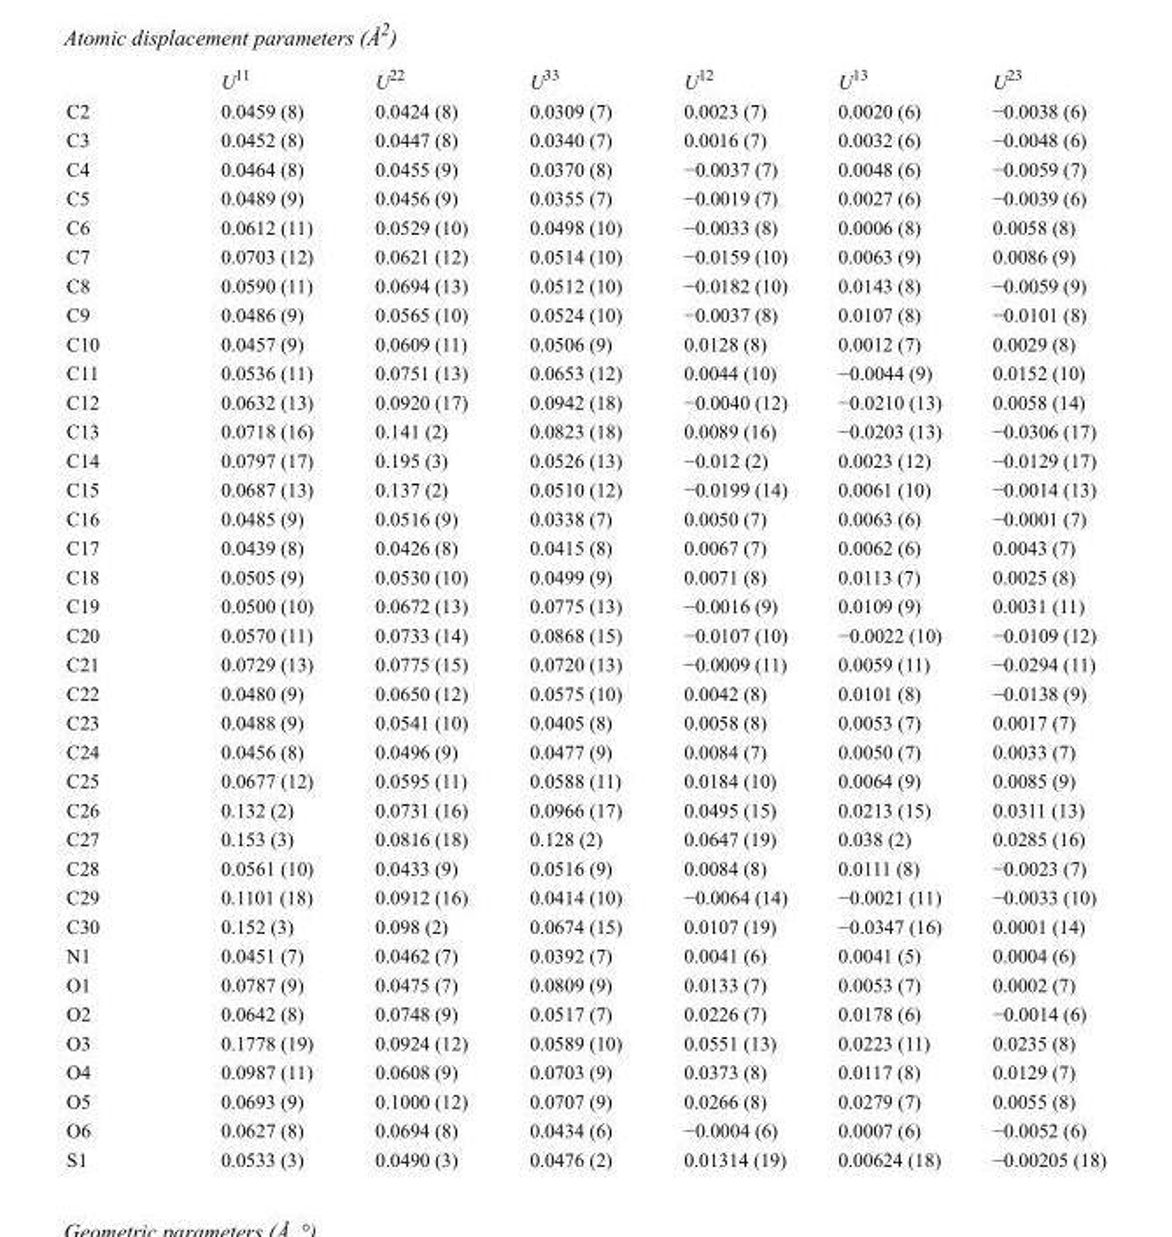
<table><thead><tr><td></td><td>U<sup>11</sup></td><td>U<sup>22</sup></td><td>U<sup>33</sup></td><td>U<sup>12</sup></td><td>U<sup>13</sup></td><td>U<sup>23</sup></td></tr></thead><tbody><tr><td>C2</td><td>0.0459 (8)</td><td>0.0424 (8)</td><td>0.0309 (7)</td><td>0.0023 (7)</td><td>0.0020 (6)</td><td>−0.0038 (6)</td></tr><tr><td>C3</td><td>0.0452 (8)</td><td>0.0447 (8)</td><td>0.0340 (7)</td><td>0.0016 (7)</td><td>0.0032 (6)</td><td>−0.0048 (6)</td></tr><tr><td>C4</td><td>0.0464 (8)</td><td>0.0455 (9)</td><td>0.0370 (8)</td><td>−0.0037 (7)</td><td>0.0048 (6)</td><td>−0.0059 (7)</td></tr><tr><td>C5</td><td>0.0489 (9)</td><td>0.0456 (9)</td><td>0.0355 (7)</td><td>−0.0019 (7)</td><td>0.0027 (6)</td><td>−0.0039 (6)</td></tr><tr><td>C6</td><td>0.0612 (11)</td><td>0.0529 (10)</td><td>0.0498 (10)</td><td>−0.0033 (8)</td><td>0.0006 (8)</td><td>0.0058 (8)</td></tr><tr><td>C7</td><td>0.0703 (12)</td><td>0.0621 (12)</td><td>0.0514 (10)</td><td>−0.0159 (10)</td><td>0.0063 (9)</td><td>0.0086 (9)</td></tr><tr><td>C8</td><td>0.0590 (11)</td><td>0.0694 (13)</td><td>0.0512 (10)</td><td>−0.0182 (10)</td><td>0.0143 (8)</td><td>−0.0059 (9)</td></tr><tr><td>C9</td><td>0.0486 (9)</td><td>0.0565 (10)</td><td>0.0524 (10)</td><td>−0.0037 (8)</td><td>0.0107 (8)</td><td>−0.0101 (8)</td></tr><tr><td>C10</td><td>0.0457 (9)</td><td>0.0609 (11)</td><td>0.0506 (9)</td><td>0.0128 (8)</td><td>0.0012 (7)</td><td>0.0029 (8)</td></tr><tr><td>C11</td><td>0.0536 (11)</td><td>0.0751 (13)</td><td>0.0653 (12)</td><td>0.0044 (10)</td><td>−0.0044 (9)</td><td>0.0152 (10)</td></tr><tr><td>C12</td><td>0.0632 (13)</td><td>0.0920 (17)</td><td>0.0942 (18)</td><td>−0.0040 (12)</td><td>−0.0210 (13)</td><td>0.0058 (14)</td></tr><tr><td>C13</td><td>0.0718 (16)</td><td>0.141 (2)</td><td>0.0823 (18)</td><td>0.0089 (16)</td><td>−0.0203 (13)</td><td>−0.0306 (17)</td></tr><tr><td>C14</td><td>0.0797 (17)</td><td>0.195 (3)</td><td>0.0526 (13)</td><td>−0.012 (2)</td><td>0.0023 (12)</td><td>−0.0129 (17)</td></tr><tr><td>C15</td><td>0.0687 (13)</td><td>0.137 (2)</td><td>0.0510 (12)</td><td>−0.0199 (14)</td><td>0.0061 (10)</td><td>−0.0014 (13)</td></tr><tr><td>C16</td><td>0.0485 (9)</td><td>0.0516 (9)</td><td>0.0338 (7)</td><td>0.0050 (7)</td><td>0.0063 (6)</td><td>−0.0001 (7)</td></tr><tr><td>C17</td><td>0.0439 (8)</td><td>0.0426 (8)</td><td>0.0415 (8)</td><td>0.0067 (7)</td><td>0.0062 (6)</td><td>0.0043 (7)</td></tr><tr><td>C18</td><td>0.0505 (9)</td><td>0.0530 (10)</td><td>0.0499 (9)</td><td>0.0071 (8)</td><td>0.0113 (7)</td><td>0.0025 (8)</td></tr><tr><td>C19</td><td>0.0500 (10)</td><td>0.0672 (13)</td><td>0.0775 (13)</td><td>−0.0016 (9)</td><td>0.0109 (9)</td><td>0.0031 (11)</td></tr><tr><td>C20</td><td>0.0570 (11)</td><td>0.0733 (14)</td><td>0.0868 (15)</td><td>−0.0107 (10)</td><td>−0.0022 (10)</td><td>−0.0109 (12)</td></tr><tr><td>C21</td><td>0.0729 (13)</td><td>0.0775 (15)</td><td>0.0720 (13)</td><td>−0.0009 (11)</td><td>0.0059 (11)</td><td>−0.0294 (11)</td></tr><tr><td>C22</td><td>0.0480 (9)</td><td>0.0650 (12)</td><td>0.0575 (10)</td><td>0.0042 (8)</td><td>0.0101 (8)</td><td>−0.0138 (9)</td></tr><tr><td>C23</td><td>0.0488 (9)</td><td>0.0541 (10)</td><td>0.0405 (8)</td><td>0.0058 (8)</td><td>0.0053 (7)</td><td>0.0017 (7)</td></tr><tr><td>C24</td><td>0.0456 (8)</td><td>0.0496 (9)</td><td>0.0477 (9)</td><td>0.0084 (7)</td><td>0.0050 (7)</td><td>0.0033 (7)</td></tr><tr><td>C25</td><td>0.0677 (12)</td><td>0.0595 (11)</td><td>0.0588 (11)</td><td>0.0184 (10)</td><td>0.0064 (9)</td><td>0.0085 (9)</td></tr><tr><td>C26</td><td>0.132 (2)</td><td>0.0731 (16)</td><td>0.0966 (17)</td><td>0.0495 (15)</td><td>0.0213 (15)</td><td>0.0311 (13)</td></tr><tr><td>C27</td><td>0.153 (3)</td><td>0.0816 (18)</td><td>0.128 (2)</td><td>0.0647 (19)</td><td>0.038 (2)</td><td>0.0285 (16)</td></tr><tr><td>C28</td><td>0.0561 (10)</td><td>0.0433 (9)</td><td>0.0516 (9)</td><td>0.0084 (8)</td><td>0.0111 (8)</td><td>−0.0023 (7)</td></tr><tr><td>C29</td><td>0.1101 (18)</td><td>0.0912 (16)</td><td>0.0414 (10)</td><td>−0.0064 (14)</td><td>−0.0021 (11)</td><td>−0.0033 (10)</td></tr><tr><td>C30</td><td>0.152 (3)</td><td>0.098 (2)</td><td>0.0674 (15)</td><td>0.0107 (19)</td><td>−0.0347 (16)</td><td>0.0001 (14)</td></tr><tr><td>N1</td><td>0.0451 (7)</td><td>0.0462 (7)</td><td>0.0392 (7)</td><td>0.0041 (6)</td><td>0.0041 (5)</td><td>0.0004 (6)</td></tr><tr><td>O1</td><td>0.0787 (9)</td><td>0.0475 (7)</td><td>0.0809 (9)</td><td>0.0133 (7)</td><td>0.0053 (7)</td><td>0.0002 (7)</td></tr><tr><td>O2</td><td>0.0642 (8)</td><td>0.0748 (9)</td><td>0.0517 (7)</td><td>0.0226 (7)</td><td>0.0178 (6)</td><td>−0.0014 (6)</td></tr><tr><td>O3</td><td>0.1778 (19)</td><td>0.0924 (12)</td><td>0.0589 (10)</td><td>0.0551 (13)</td><td>0.0223 (11)</td><td>0.0235 (8)</td></tr><tr><td>O4</td><td>0.0987 (11)</td><td>0.0608 (9)</td><td>0.0703 (9)</td><td>0.0373 (8)</td><td>0.0117 (8)</td><td>0.0129 (7)</td></tr><tr><td>O5</td><td>0.0693 (9)</td><td>0.1000 (12)</td><td>0.0707 (9)</td><td>0.0266 (8)</td><td>0.0279 (7)</td><td>0.0055 (8)</td></tr><tr><td>O6</td><td>0.0627 (8)</td><td>0.0694 (8)</td><td>0.0434 (6)</td><td>−0.0004 (6)</td><td>0.0007 (6)</td><td>−0.0052 (6)</td></tr><tr><td>S1</td><td>0.0533 (3)</td><td>0.0490 (3)</td><td>0.0476 (2)</td><td>0.01314 (19)</td><td>0.00624 (18)</td><td>−0.00205 (18)</td></tr></tbody></table>